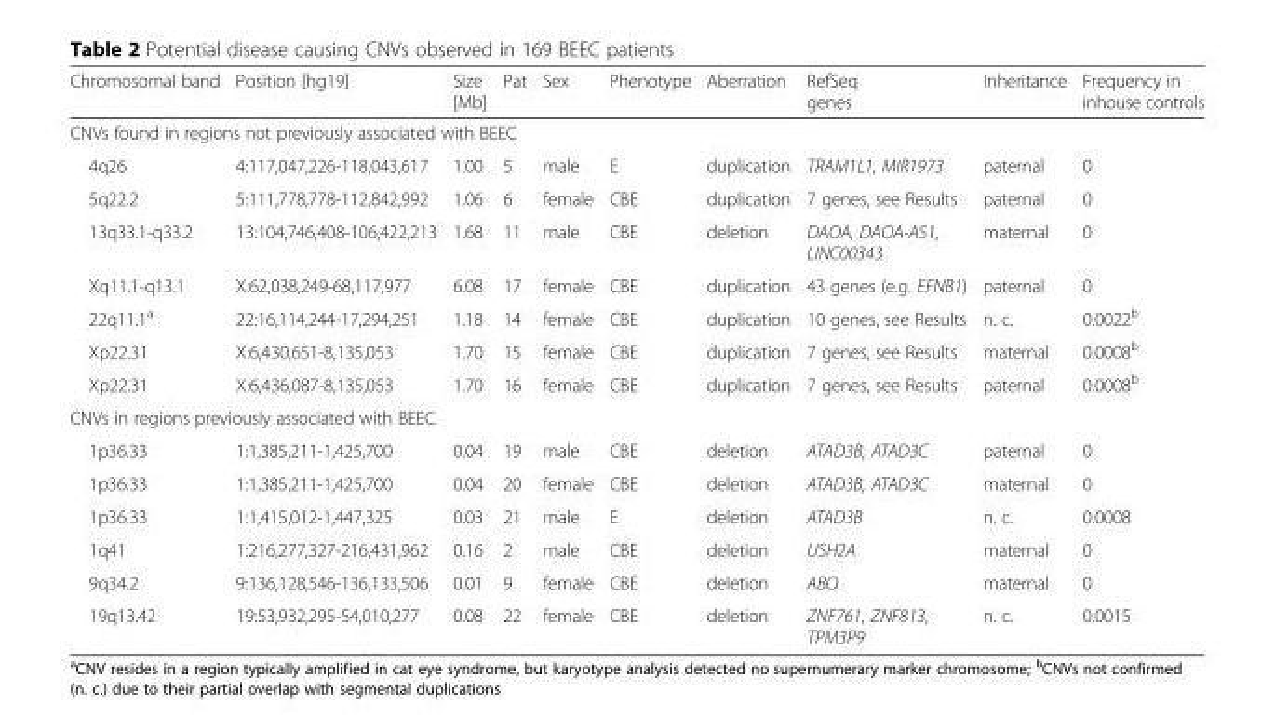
<table><thead><tr><td>Chromosomal band</td><td>Position [hg19]</td><td>Size [Mb]</td><td>Pat</td><td>Sex</td><td>Phenotype</td><td>Aberration</td><td>RefSeq genes</td><td>Inheritance</td><td>Frequency in inhouse controls</td></tr></thead><tbody><tr><td colspan="10">CNVs found in regions not previously associated with BEEC</td></tr><tr><td>4q26</td><td>4:117,047,226-118,043,617</td><td>1.00</td><td>5</td><td>male</td><td>E</td><td>duplication</td><td>TRAM1L1, MIR1973</td><td>paternal</td><td>0</td></tr><tr><td>5q22.2</td><td>5:111,778,778-112,842,992</td><td>1.06</td><td>6</td><td>female</td><td>CBE</td><td>duplication</td><td>7 genes, see Results</td><td>paternal</td><td>0</td></tr><tr><td>13q33.1-q33.2</td><td>13:104,746,408-106,422,213</td><td>1.68</td><td>11</td><td>male</td><td>CBE</td><td>deletion</td><td>DAOA, DAOA-AS1, LINC00343</td><td>maternal</td><td>0</td></tr><tr><td>Xq11.1-q13.1</td><td>X:62,038,249-68,117,977</td><td>6.08</td><td>17</td><td>female</td><td>CBE</td><td>duplication</td><td>43 genes (e.g. EFNB1)</td><td>paternal</td><td>0</td></tr><tr><td>22q11.1<sup>a</sup></td><td>22:16,114,244-17,294,251</td><td>1.18</td><td>14</td><td>female</td><td>CBE</td><td>duplication</td><td>10 genes, see Results</td><td>n. c.</td><td>0.0022<sup>b</sup></td></tr><tr><td>Xp22.31</td><td>X:6,430,651-8,135,053</td><td>1.70</td><td>15</td><td>female</td><td>CBE</td><td>duplication</td><td>7 genes, see Results</td><td>maternal</td><td>0.0008<sup>b</sup></td></tr><tr><td>Xp22.31</td><td>X:6,436,087-8,135,053</td><td>1.70</td><td>16</td><td>female</td><td>CBE</td><td>duplication</td><td>7 genes, see Results</td><td>paternal</td><td>0.0008<sup>b</sup></td></tr><tr><td colspan="10">CNVs in regions previously associated with BEEC</td></tr><tr><td>1p36.33</td><td>1:1,385,211-1,425,700</td><td>0.04</td><td>19</td><td>male</td><td>CBE</td><td>deletion</td><td>ATAD3B, ATAD3C</td><td>paternal</td><td>0</td></tr><tr><td>1p36.33</td><td>1:1,385,211-1,425,700</td><td>0.04</td><td>20</td><td>female</td><td>CBE</td><td>deletion</td><td>ATAD3B, ATAD3C</td><td>maternal</td><td>0</td></tr><tr><td>1p36.33</td><td>1:1,415,012-1,447,325</td><td>0.03</td><td>21</td><td>male</td><td>E</td><td>deletion</td><td>ATAD3B</td><td>n. c.</td><td>0.0008</td></tr><tr><td>1q41</td><td>1:216,277,327-216,431,962</td><td>0.16</td><td>2</td><td>male</td><td>CBE</td><td>deletion</td><td>USH2A</td><td>maternal</td><td>0</td></tr><tr><td>9q34.2</td><td>9:136,128,546-136,133,506</td><td>0.01</td><td>9</td><td>female</td><td>CBE</td><td>deletion</td><td>ABO</td><td>maternal</td><td>0</td></tr><tr><td>19q13.42</td><td>19:53,932,295-54,010,277</td><td>0.08</td><td>22</td><td>female</td><td>CBE</td><td>deletion</td><td>ZNF761, ZNF813, TPM3P9</td><td>n. c.</td><td>0.0015</td></tr></tbody></table>